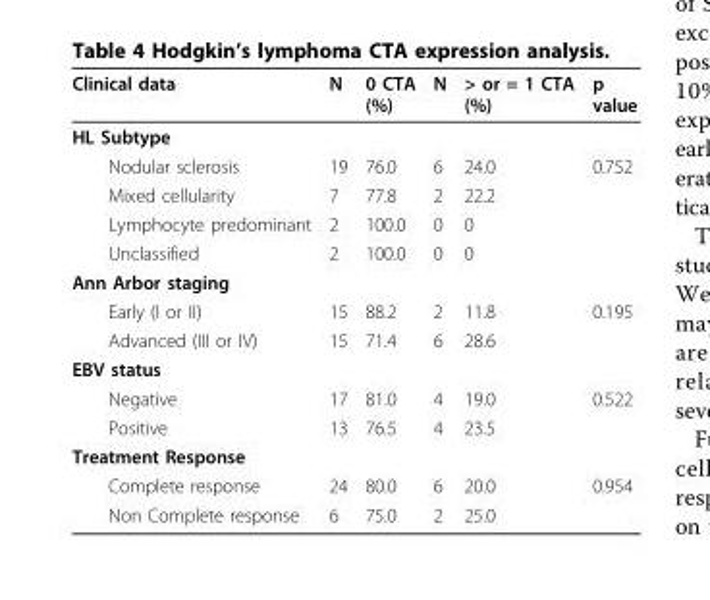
<table><thead><tr><td>Clinical data</td><td>N</td><td>0 CTA (%)</td><td>N</td><td>&gt; or = 1 CTA (%)</td><td>p value</td></tr></thead><tbody><tr><td colspan="6">HL Subtype</td></tr><tr><td>Nodular sclerosis</td><td>19</td><td>76.0</td><td>6</td><td>24.0</td><td>0.752</td></tr><tr><td>Mixed cellularity</td><td>7</td><td>77.8</td><td>2</td><td>22.2</td><td></td></tr><tr><td>Lymphocyte predominant</td><td>2</td><td>100.0</td><td>0</td><td>0</td><td></td></tr><tr><td>Unclassified</td><td>2</td><td>100.0</td><td>0</td><td>0</td><td></td></tr><tr><td colspan="6">Ann Arbor staging</td></tr><tr><td>Early (I or II)</td><td>15</td><td>88.2</td><td>2</td><td>11.8</td><td>0.195</td></tr><tr><td>Advanced (III or IV)</td><td>15</td><td>71.4</td><td>6</td><td>28.6</td><td></td></tr><tr><td colspan="6">EBV status</td></tr><tr><td>Negative</td><td>17</td><td>81.0</td><td>4</td><td>19.0</td><td>0.522</td></tr><tr><td>Positive</td><td>13</td><td>76.5</td><td>4</td><td>23.5</td><td></td></tr><tr><td colspan="6">Treatment Response</td></tr><tr><td>Complete response</td><td>24</td><td>80.0</td><td>6</td><td>20.0</td><td>0.954</td></tr><tr><td>Non Complete response</td><td>6</td><td>75.0</td><td>2</td><td>25.0</td><td></td></tr></tbody></table>